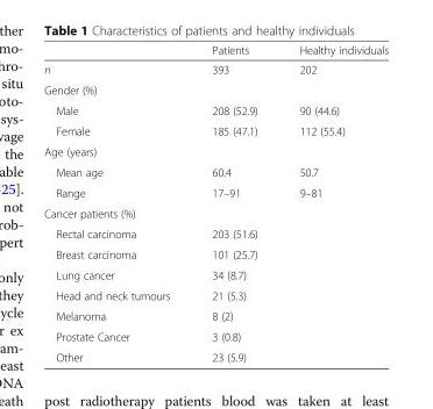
<table><thead><tr><td></td><td>Patients</td><td>Healthy individuals</td></tr></thead><tbody><tr><td>n</td><td>393</td><td>202</td></tr><tr><td colspan="3">Gender (%)</td></tr><tr><td>Male</td><td>208 (52.9)</td><td>90 (44.6)</td></tr><tr><td>Female</td><td>185 (47.1)</td><td>112 (55.4)</td></tr><tr><td colspan="3">Age (years)</td></tr><tr><td>Mean age</td><td>60.4</td><td>50.7</td></tr><tr><td>Range</td><td>17–91</td><td>9–81</td></tr><tr><td colspan="3">Cancer patients (%)</td></tr><tr><td>Rectal carcinoma</td><td>203 (51.6)</td><td></td></tr><tr><td>Breast carcinoma</td><td>101 (25.7)</td><td></td></tr><tr><td>Lung cancer</td><td>34 (8.7)</td><td></td></tr><tr><td>Head and neck tumours</td><td>21 (5.3)</td><td></td></tr><tr><td>Melanoma</td><td>8 (2)</td><td></td></tr><tr><td>Prostate Cancer</td><td>3 (0.8)</td><td></td></tr><tr><td>Other</td><td>23 (5.9)</td><td></td></tr></tbody></table>